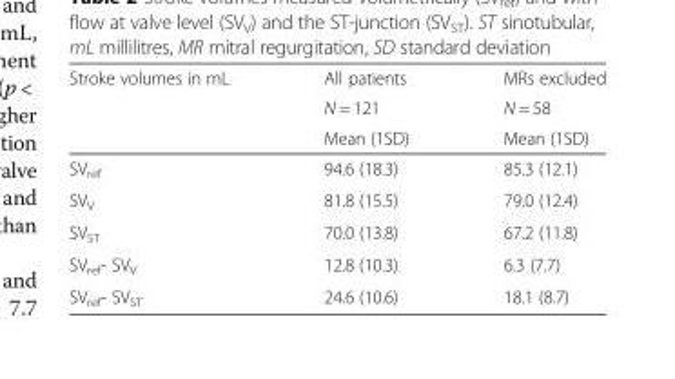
<table><thead><tr><td rowspan="3">Stroke volumes in mL</td><td rowspan="3">All patients N = 121 Mean (1SD)</td><td rowspan="3">MRs excluded N = 58 Mean (1SD)</td></tr><tr></tr><tr></tr></thead><tbody><tr><td>SV<sub>ref</sub></td><td>94.6 (18.3)</td><td>85.3 (12.1)</td></tr><tr><td>SV<sub>V</sub></td><td>81.8 (15.5)</td><td>79.0 (12.4)</td></tr><tr><td>SV<sub>ST</sub></td><td>70.0 (13.8)</td><td>67.2 (11.8)</td></tr><tr><td>SV<sub>ref</sub>- SV<sub>V</sub></td><td>12.8 (10.3)</td><td>6.3 (7.7)</td></tr><tr><td>SV<sub>ref</sub>- SV<sub>ST</sub></td><td>24.6 (10.6)</td><td>18.1 (8.7)</td></tr></tbody></table>